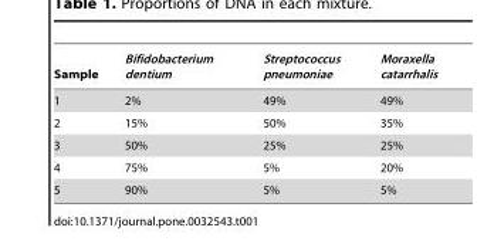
<table><thead><tr><td>Sample</td><td>Bifidobacterium dentium</td><td>Streptococcus pneumoniae</td><td>Moraxella catarrhalis</td></tr></thead><tbody><tr><td>1</td><td>2%</td><td>49%</td><td>49%</td></tr><tr><td>2</td><td>15%</td><td>50%</td><td>35%</td></tr><tr><td>3</td><td>50%</td><td>25%</td><td>25%</td></tr><tr><td>4</td><td>75%</td><td>5%</td><td>20%</td></tr><tr><td>5</td><td>90%</td><td>5%</td><td>5%</td></tr></tbody></table>